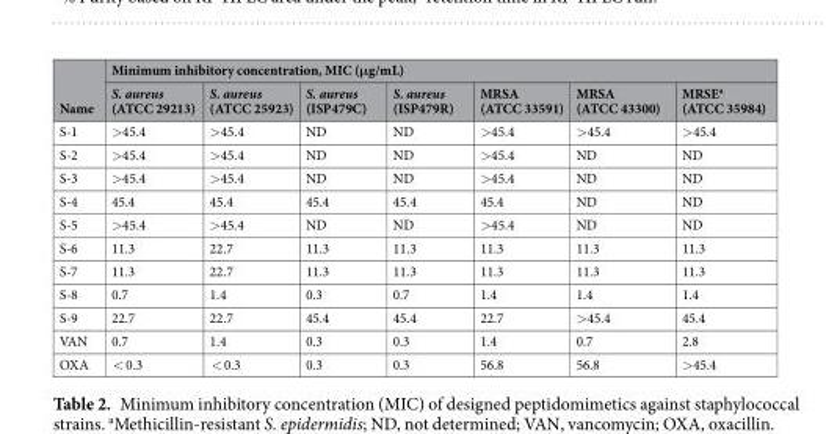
<table><thead><tr><td rowspan="2">Name</td><td colspan="7">Minimum inhibitory concentration, MIC (μg/mL)</td></tr><tr><td>S. aureus (ATCC 29213)</td><td>S. aureus (ATCC 25923)</td><td>S. aureus (ISP479C)</td><td>S. aureus (ISP479R)</td><td>MRSA (ATCC 33591)</td><td>MRSA (ATCC 43300)</td><td>MRSE<sup>a</sup> (ATCC 35984)</td></tr></thead><tbody><tr><td>S-1</td><td>&gt;45.4</td><td>&gt;45.4</td><td>ND</td><td>ND</td><td>&gt;45.4</td><td>&gt;45.4</td><td>&gt;45.4</td></tr><tr><td>S-2</td><td>&gt;45.4</td><td>&gt;45.4</td><td>ND</td><td>ND</td><td>&gt;45.4</td><td>ND</td><td>ND</td></tr><tr><td>S-3</td><td>&gt;45.4</td><td>&gt;45.4</td><td>ND</td><td>ND</td><td>&gt;45.4</td><td>ND</td><td>ND</td></tr><tr><td>S-4</td><td>45.4</td><td>45.4</td><td>45.4</td><td>45.4</td><td>45.4</td><td>ND</td><td>ND</td></tr><tr><td>S-5</td><td>&gt;45.4</td><td>&gt;45.4</td><td>ND</td><td>ND</td><td>&gt;45.4</td><td>ND</td><td>ND</td></tr><tr><td>S-6</td><td>11.3</td><td>22.7</td><td>11.3</td><td>11.3</td><td>11.3</td><td>11.3</td><td>11.3</td></tr><tr><td>S-7</td><td>11.3</td><td>22.7</td><td>11.3</td><td>11.3</td><td>11.3</td><td>11.3</td><td>11.3</td></tr><tr><td>S-8</td><td>0.7</td><td>1.4</td><td>0.3</td><td>0.7</td><td>1.4</td><td>1.4</td><td>1.4</td></tr><tr><td>S-9</td><td>22.7</td><td>22.7</td><td>45.4</td><td>45.4</td><td>22.7</td><td>&gt;45.4</td><td>45.4</td></tr><tr><td>VAN</td><td>0.7</td><td>1.4</td><td>0.3</td><td>0.3</td><td>1.4</td><td>0.7</td><td>2.8</td></tr><tr><td>OXA</td><td>&lt; 0.3</td><td>&lt; 0.3</td><td>0.3</td><td>0.3</td><td>56.8</td><td>56.8</td><td>&gt;45.4</td></tr></tbody></table>